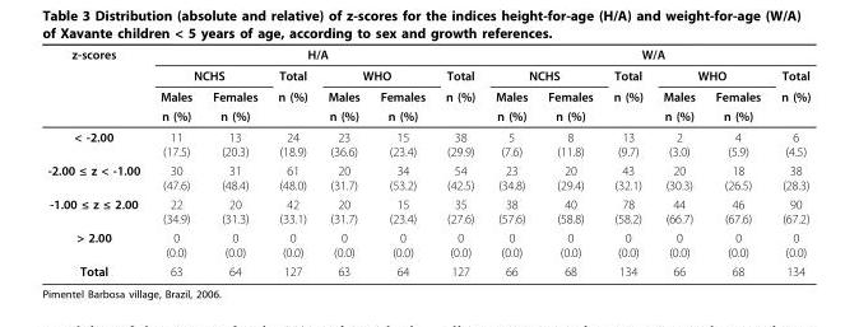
<table><thead><tr><td rowspan="4">z-scores</td><td colspan="6">H/A</td><td colspan="6">W/A</td></tr><tr><td colspan="2">NCHS</td><td rowspan="3">Total n (%)</td><td colspan="2">WHO</td><td rowspan="3">Total n (%)</td><td colspan="2">NCHS</td><td rowspan="3">Total n (%)</td><td colspan="2">WHO</td><td rowspan="3">Total n (%)</td></tr><tr><td rowspan="2">Males n (%)</td><td rowspan="2">Females n (%)</td><td rowspan="2">Males n (%)</td><td rowspan="2">Females n (%)</td><td rowspan="2">Males n (%)</td><td rowspan="2">Females n (%)</td><td rowspan="2">Males n (%)</td><td rowspan="2">Females n (%)</td></tr><tr></tr></thead><tbody><tr><td>&lt; -2.00</td><td>11 (17.5)</td><td>13 (20.3)</td><td>24 (18.9)</td><td>23 (36.6)</td><td>15 (23.4)</td><td>38 (29.9)</td><td>5 (7.6)</td><td>8 (11.8)</td><td>13 (9.7)</td><td>2 (3.0)</td><td>4 (5.9)</td><td>6 (4.5)</td></tr><tr><td>-2.00 ≤ z &lt; -1.00</td><td>30 (47.6)</td><td>31 (48.4)</td><td>61 (48.0)</td><td>20 (31.7)</td><td>34 (53.2)</td><td>54 (42.5)</td><td>23 (34.8)</td><td>20 (29.4)</td><td>43 (32.1)</td><td>20 (30.3)</td><td>18 (26.5)</td><td>38 (28.3)</td></tr><tr><td>-1.00 ≤ z ≤ 2.00</td><td>22 (34.9)</td><td>20 (31.3)</td><td>42 (33.1)</td><td>20 (31.7)</td><td>15 (23.4)</td><td>35 (27.6)</td><td>38 (57.6)</td><td>40 (58.8)</td><td>78 (58.2)</td><td>44 (66.7)</td><td>46 (67.6)</td><td>90 (67.2)</td></tr><tr><td>&gt; 2.00</td><td>0 (0.0)</td><td>0 (0.0)</td><td>0 (0.0)</td><td>0 (0.0)</td><td>0 (0.0)</td><td>0 (0.0)</td><td>0 (0.0)</td><td>0 (0.0)</td><td>0 (0.0)</td><td>0 (0.0)</td><td>0 (0.0)</td><td>0 (0.0)</td></tr><tr><td>Total</td><td>63</td><td>64</td><td>127</td><td>63</td><td>64</td><td>127</td><td>66</td><td>68</td><td>134</td><td>66</td><td>68</td><td>134</td></tr></tbody></table>